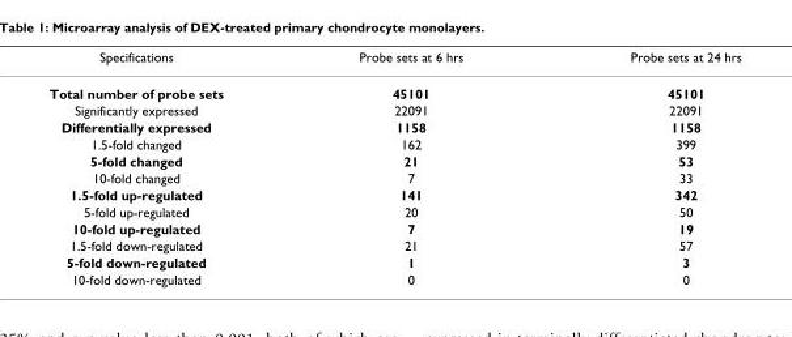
<table><thead><tr><td>Specifications</td><td>Probe sets at 6 hrs</td><td>Probe sets at 24 hrs</td></tr></thead><tbody><tr><td>Total number of probe sets</td><td>45101</td><td>45101</td></tr><tr><td>Significantly expressed</td><td>22091</td><td>22091</td></tr><tr><td>Differentially expressed</td><td>1158</td><td>1158</td></tr><tr><td>1.5-fold changed</td><td>162</td><td>399</td></tr><tr><td>5-fold changed</td><td>21</td><td>53</td></tr><tr><td>10-fold changed</td><td>7</td><td>33</td></tr><tr><td>1.5-fold up-regulated</td><td>141</td><td>342</td></tr><tr><td>5-fold up-regulated</td><td>20</td><td>50</td></tr><tr><td>10-fold up-regulated</td><td>7</td><td>19</td></tr><tr><td>1.5-fold down-regulated</td><td>21</td><td>57</td></tr><tr><td>5-fold down-regulated</td><td>1</td><td>3</td></tr><tr><td>10-fold down-regulated</td><td>0</td><td>0</td></tr></tbody></table>